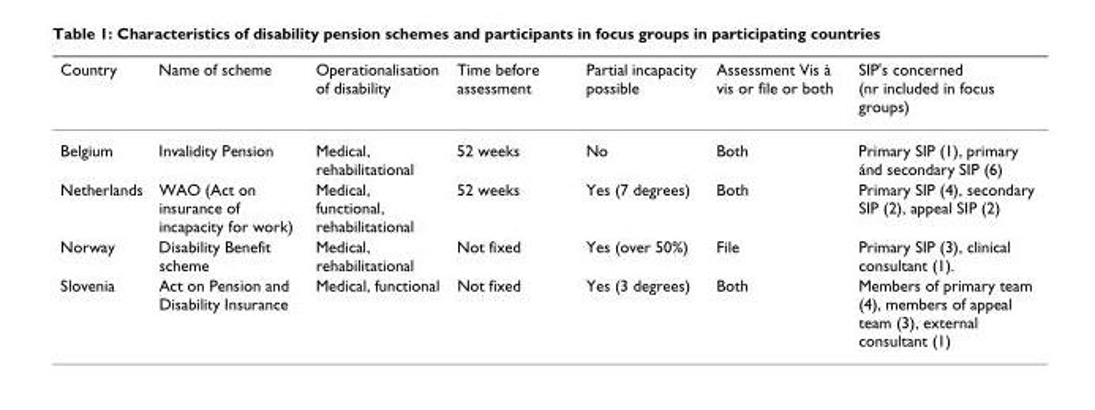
<table><thead><tr><td>Country</td><td>Name of scheme</td><td>Operationalisation of disability</td><td>Time before assessment</td><td>Partial incapacity possible</td><td>Assessment Vis à vis or file or both</td><td>SIP&#x27;s concerned (nr included in focus groups)</td></tr></thead><tbody><tr><td>Belgium</td><td>Invalidity Pension</td><td>Medical, rehabilitational</td><td>52 weeks</td><td>No</td><td>Both</td><td>Primary SIP (1), primary ánd secondary SIP (6)</td></tr><tr><td>Netherlands</td><td>WAO (Act on insurance of incapacity for work)</td><td>Medical, functional, rehabilitational</td><td>52 weeks</td><td>Yes (7 degrees)</td><td>Both</td><td>Primary SIP (4), secondary SIP (2), appeal SIP (2)</td></tr><tr><td>Norway</td><td>Disability Benefit scheme</td><td>Medical, rehabilitational</td><td>Not fixed</td><td>Yes (over 50%)</td><td>File</td><td>Primary SIP (3), clinical consultant (1).</td></tr><tr><td>Slovenia</td><td>Act on Pension and Disability Insurance</td><td>Medical, functional</td><td>Not fixed</td><td>Yes (3 degrees)</td><td>Both</td><td>Members of primary team (4), members of appeal team (3), external consultant (1)</td></tr></tbody></table>